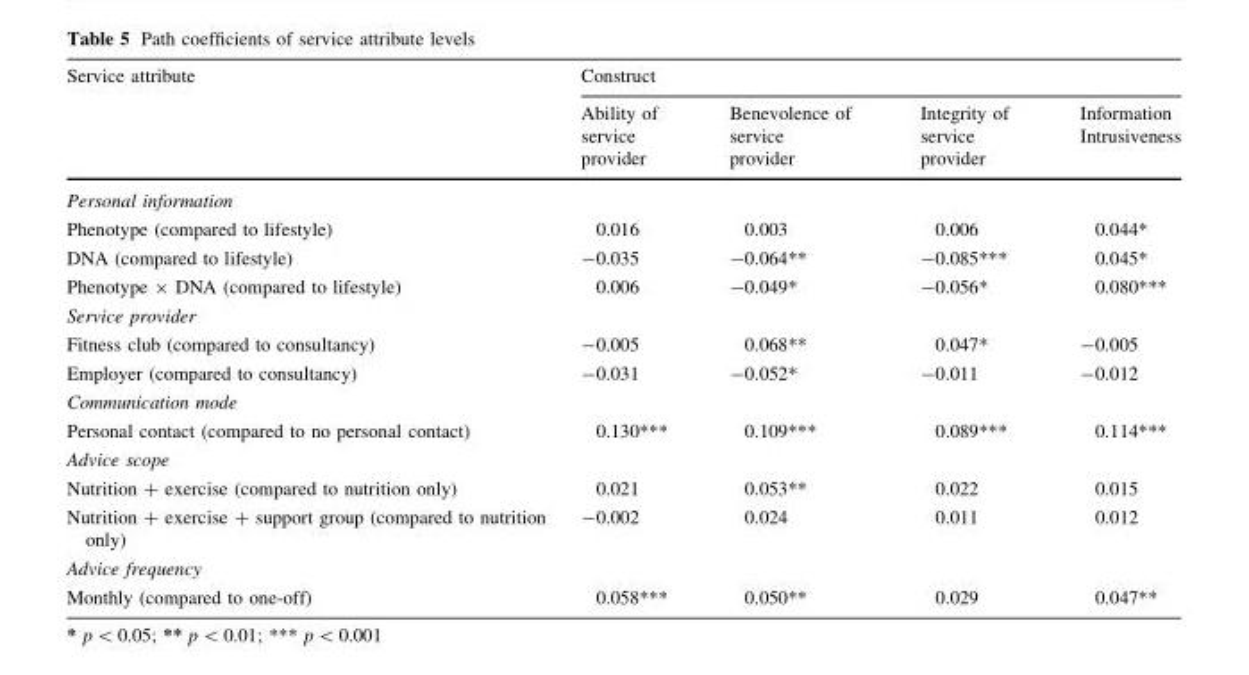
<table><thead><tr><td rowspan="2">Service attribute</td><td colspan="4">Construct</td></tr><tr><td>Ability of service provider</td><td>Benevolence of service provider</td><td>Integrity of service provider</td><td>Information Intrusiveness</td></tr></thead><tbody><tr><td colspan="5">Personal information</td></tr><tr><td>Phenotype (compared to lifestyle)</td><td>0.016</td><td>0.003</td><td>0.006</td><td>0.044*</td></tr><tr><td>DNA (compared to lifestyle)</td><td>-0.035</td><td>-0.064**</td><td>-0.085***</td><td>0.045*</td></tr><tr><td>Phenotype × DNA (compared to lifestyle)</td><td>0.006</td><td>-0.049*</td><td>-0.056*</td><td>0.080***</td></tr><tr><td colspan="5">Service provider</td></tr><tr><td>Fitness club (compared to consultancy)</td><td>-0.005</td><td>0.068**</td><td>0.047*</td><td>-0.005</td></tr><tr><td>Employer (compared to consultancy)</td><td>-0.031</td><td>-0.052*</td><td>-0.011</td><td>-0.012</td></tr><tr><td colspan="5">Communication mode</td></tr><tr><td>Personal contact (compared to no personal contact)</td><td>0.130***</td><td>0.109***</td><td>0.089***</td><td>0.114***</td></tr><tr><td colspan="5">Advice scope</td></tr><tr><td>Nutrition + exercise (compared to nutrition only)</td><td>0.021</td><td>0.053**</td><td>0.022</td><td>0.015</td></tr><tr><td>Nutrition + exercise + support group (compared to nutrition only)</td><td>-0.002</td><td>0.024</td><td>0.011</td><td>0.012</td></tr><tr><td colspan="5">Advice frequency</td></tr><tr><td>Monthly (compared to one-off)</td><td>0.058***</td><td>0.050**</td><td>0.029</td><td>0.047**</td></tr></tbody></table>